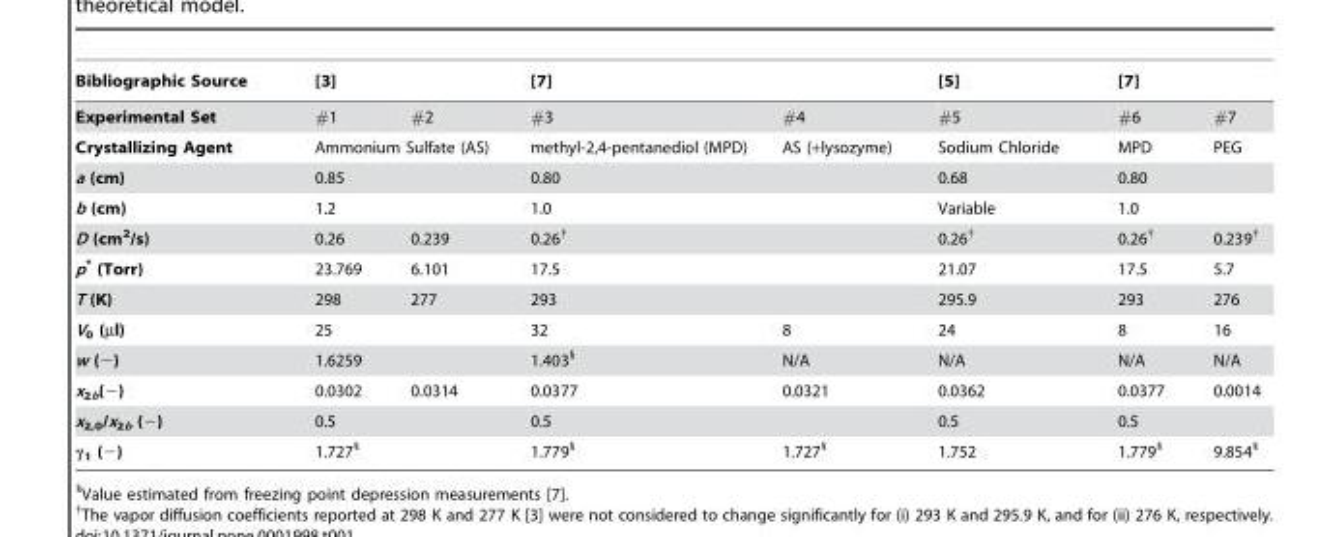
<table><thead><tr><td rowspan="2">Bibliographic Source Experimental Set</td><td colspan="2">[3]</td><td colspan="2">[7]</td><td rowspan="2">[5] #5</td><td colspan="2">[7]</td></tr><tr><td>#1</td><td>#2</td><td>#3</td><td>#4</td><td>#6</td><td>#7</td></tr></thead><tbody><tr><td>Crystallizing Agent</td><td colspan="2">Ammonium Sulfate (AS)</td><td>methyl-2,4-pentanediol (MPD)</td><td>AS (+lysozyme)</td><td>Sodium Chloride</td><td>MPD</td><td>PEG</td></tr><tr><td>a (cm)</td><td colspan="2">0.85</td><td colspan="2">0.80</td><td>0.68</td><td colspan="2">0.80</td></tr><tr><td>b (cm)</td><td colspan="2">1.2</td><td colspan="2">1.0</td><td>Variable</td><td colspan="2">1.0</td></tr><tr><td>D (cm<sup>2</sup>/s)</td><td>0.26</td><td>0.239</td><td colspan="2">0.26†</td><td>0.26†</td><td>0.26†</td><td>0.239†</td></tr><tr><td>p* (Torr)</td><td>23.769</td><td>6.101</td><td colspan="2">17.5</td><td>21.07</td><td>17.5</td><td>5.7</td></tr><tr><td>T (K)</td><td>298</td><td>277</td><td colspan="2">293</td><td>295.9</td><td>293</td><td>276</td></tr><tr><td>V<sub>0</sub> (µl)</td><td colspan="2">25</td><td>32</td><td>8</td><td>24</td><td>8</td><td>16</td></tr><tr><td>w (−)</td><td colspan="2">1.6259</td><td>1.403§</td><td>N/A</td><td>N/A</td><td>N/A</td><td>N/A</td></tr><tr><td>x<sub>2b</sub>(−)</td><td>0.0302</td><td>0.0314</td><td>0.0377</td><td>0.0321</td><td>0.0362</td><td>0.0377</td><td>0.0014</td></tr><tr><td>x<sub>2,0</sub>/x<sub>2b</sub> (−)</td><td colspan="2">0.5</td><td colspan="2">0.5</td><td>0.5</td><td colspan="2">0.5</td></tr><tr><td>γ<sub>1</sub> (−)</td><td colspan="2">1.727§</td><td>1.779§</td><td>1.727§</td><td>1.752</td><td>1.779§</td><td>9.854§</td></tr></tbody></table>